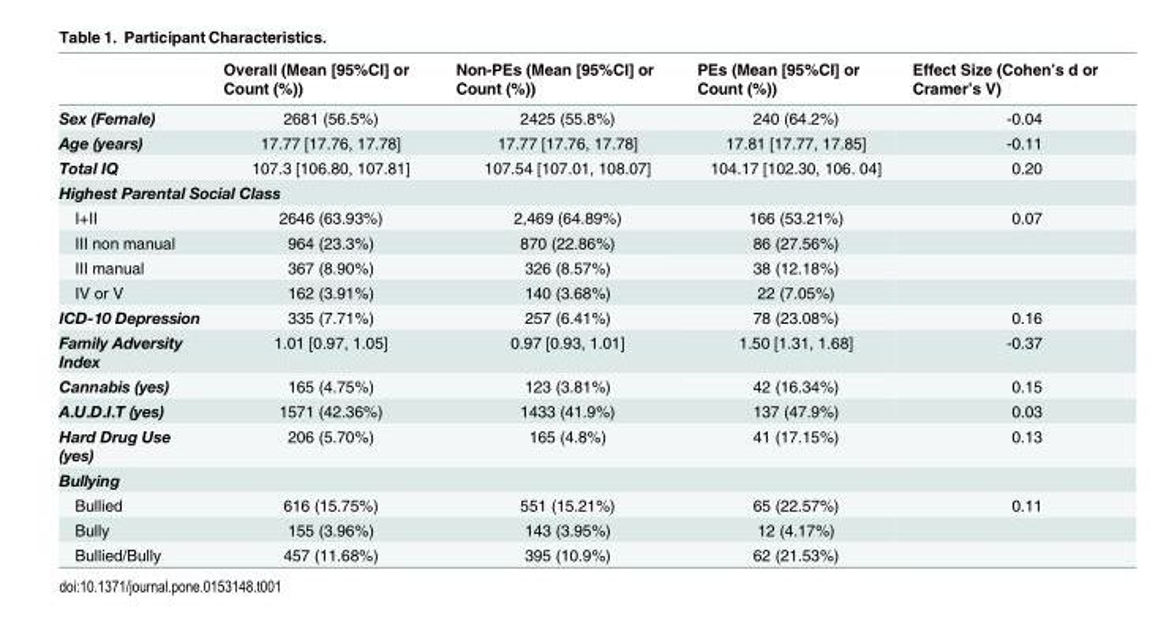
<table><thead><tr><td></td><td>Overall (Mean [95%CI] or Count (%))</td><td>Non-PEs (Mean [95%CI] or Count (%))</td><td>PEs (Mean [95%CI] or Count (%))</td><td>Effect Size (Cohen’s d or Cramer’s V)</td></tr></thead><tbody><tr><td>Sex (Female)</td><td>2681 (56.5%)</td><td>2425 (55.8%)</td><td>240 (64.2%)</td><td>-0.04</td></tr><tr><td>Age (years)</td><td>17.77 [17.76, 17.78]</td><td>17.77 [17.76, 17.78]</td><td>17.81 [17.77, 17.85]</td><td>-0.11</td></tr><tr><td>Total IQ</td><td>107.3 [106.80, 107.81]</td><td>107.54 [107.01, 108.07]</td><td>104.17 [102.30, 106. 04]</td><td>0.20</td></tr><tr><td colspan="5">Highest Parental Social Class</td></tr><tr><td>I+II</td><td>2646 (63.93%)</td><td>2,469 (64.89%)</td><td>166 (53.21%)</td><td>0.07</td></tr><tr><td>III non manual</td><td>964 (23.3%)</td><td>870 (22.86%)</td><td>86 (27.56%)</td><td></td></tr><tr><td>III manual</td><td>367 (8.90%)</td><td>326 (8.57%)</td><td>38 (12.18%)</td><td></td></tr><tr><td>IV or V</td><td>162 (3.91%)</td><td>140 (3.68%)</td><td>22 (7.05%)</td><td></td></tr><tr><td>ICD-10 Depression</td><td>335 (7.71%)</td><td>257 (6.41%)</td><td>78 (23.08%)</td><td>0.16</td></tr><tr><td>Family Adversity Index</td><td>1.01 [0.97, 1.05]</td><td>0.97 [0.93, 1.01]</td><td>1.50 [1.31, 1.68]</td><td>-0.37</td></tr><tr><td>Cannabis (yes)</td><td>165 (4.75%)</td><td>123 (3.81%)</td><td>42 (16.34%)</td><td>0.15</td></tr><tr><td>A.U.D.I.T (yes)</td><td>1571 (42.36%)</td><td>1433 (41.9%)</td><td>137 (47.9%)</td><td>0.03</td></tr><tr><td>Hard Drug Use (yes)</td><td>206 (5.70%)</td><td>165 (4.8%)</td><td>41 (17.15%)</td><td>0.13</td></tr><tr><td colspan="5">Bullying</td></tr><tr><td>Bullied</td><td>616 (15.75%)</td><td>551 (15.21%)</td><td>65 (22.57%)</td><td>0.11</td></tr><tr><td>Bully</td><td>155 (3.96%)</td><td>143 (3.95%)</td><td>12 (4.17%)</td><td></td></tr><tr><td>Bullied/Bully</td><td>457 (11.68%)</td><td>395 (10.9%)</td><td>62 (21.53%)</td><td></td></tr></tbody></table>